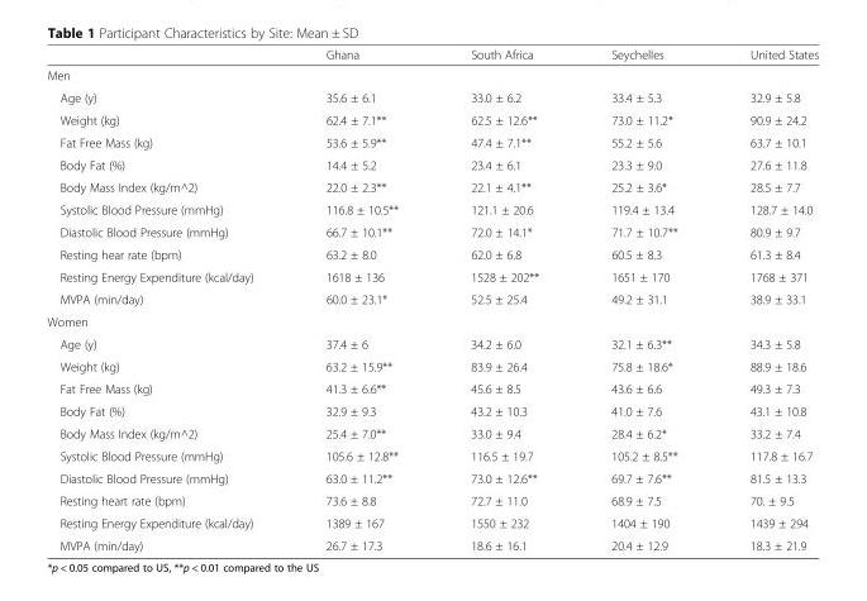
<table><thead><tr><td></td><td>Ghana</td><td>South Africa</td><td>Seychelles</td><td>United States</td></tr></thead><tbody><tr><td colspan="5">Men</td></tr><tr><td>Age (y)</td><td>35.6 ± 6.1</td><td>33.0 ± 6.2</td><td>33.4 ± 5.3</td><td>32.9 ± 5.8</td></tr><tr><td>Weight (kg)</td><td>62.4 ± 7.1**</td><td>62.5 ± 12.6**</td><td>73.0 ± 11.2*</td><td>90.9 ± 24.2</td></tr><tr><td>Fat Free Mass (kg)</td><td>53.6 ± 5.9**</td><td>47.4 ± 7.1**</td><td>55.2 ± 5.6</td><td>63.7 ± 10.1</td></tr><tr><td>Body Fat (%)</td><td>14.4 ± 5.2</td><td>23.4 ± 6.1</td><td>23.3 ± 9.0</td><td>27.6 ± 11.8</td></tr><tr><td>Body Mass Index (kg/m^2)</td><td>22.0 ± 2.3**</td><td>22.1 ± 4.1**</td><td>25.2 ± 3.6*</td><td>28.5 ± 7.7</td></tr><tr><td>Systolic Blood Pressure (mmHg)</td><td>116.8 ± 10.5**</td><td>121.1 ± 20.6</td><td>119.4 ± 13.4</td><td>128.7 ± 14.0</td></tr><tr><td>Diastolic Blood Pressure (mmHg)</td><td>66.7 ± 10.1**</td><td>72.0 ± 14.1*</td><td>71.7 ± 10.7**</td><td>80.9 ± 9.7</td></tr><tr><td>Resting hear rate (bpm)</td><td>63.2 ± 8.0</td><td>62.0 ± 6.8</td><td>60.5 ± 8.3</td><td>61.3 ± 8.4</td></tr><tr><td>Resting Energy Expenditure (kcal/day)</td><td>1618 ± 136</td><td>1528 ± 202**</td><td>1651 ± 170</td><td>1768 ± 371</td></tr><tr><td>MVPA (min/day)</td><td>60.0 ± 23.1*</td><td>52.5 ± 25.4</td><td>49.2 ± 31.1</td><td>38.9 ± 33.1</td></tr><tr><td colspan="5">Women</td></tr><tr><td>Age (y)</td><td>37.4 ± 6</td><td>34.2 ± 6.0</td><td>32.1 ± 6.3**</td><td>34.3 ± 5.8</td></tr><tr><td>Weight (kg)</td><td>63.2 ± 15.9**</td><td>83.9 ± 26.4</td><td>75.8 ± 18.6*</td><td>88.9 ± 18.6</td></tr><tr><td>Fat Free Mass (kg)</td><td>41.3 ± 6.6**</td><td>45.6 ± 8.5</td><td>43.6 ± 6.6</td><td>49.3 ± 7.3</td></tr><tr><td>Body Fat (%)</td><td>32.9 ± 9.3</td><td>43.2 ± 10.3</td><td>41.0 ± 7.6</td><td>43.1 ± 10.8</td></tr><tr><td>Body Mass Index (kg/m^2)</td><td>25.4 ± 7.0**</td><td>33.0 ± 9.4</td><td>28.4 ± 6.2*</td><td>33.2 ± 7.4</td></tr><tr><td>Systolic Blood Pressure (mmHg)</td><td>105.6 ± 12.8**</td><td>116.5 ± 19.7</td><td>105.2 ± 8.5**</td><td>117.8 ± 16.7</td></tr><tr><td>Diastolic Blood Pressure (mmHg)</td><td>63.0 ± 11.2**</td><td>73.0 ± 12.6**</td><td>69.7 ± 7.6**</td><td>81.5 ± 13.3</td></tr><tr><td>Resting heart rate (bpm)</td><td>73.6 ± 8.8</td><td>72.7 ± 11.0</td><td>68.9 ± 7.5</td><td>70. ± 9.5</td></tr><tr><td>Resting Energy Expenditure (kcal/day)</td><td>1389 ± 167</td><td>1550 ± 232</td><td>1404 ± 190</td><td>1439 ± 294</td></tr><tr><td>MVPA (min/day)</td><td>26.7 ± 17.3</td><td>18.6 ± 16.1</td><td>20.4 ± 12.9</td><td>18.3 ± 21.9</td></tr></tbody></table>